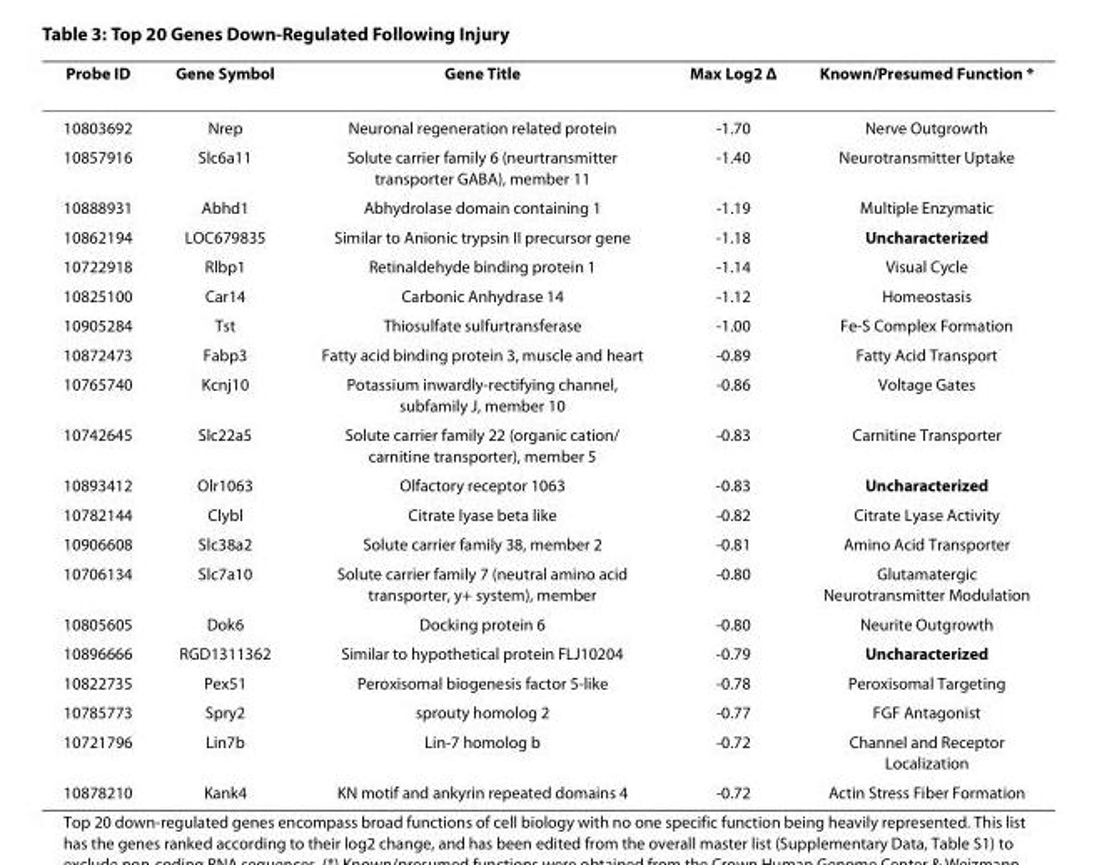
<table><thead><tr><td>Probe ID</td><td>Gene Symbol</td><td>Gene Title</td><td>Max Log2 Δ</td><td>Known/Presumed Function *</td></tr></thead><tbody><tr><td>10803692</td><td>Nrep</td><td>Neuronal regeneration related protein</td><td>-1.70</td><td>Nerve Outgrowth</td></tr><tr><td>10857916</td><td>Slc6a11</td><td>Solute carrier family 6 (neurtransmitter transporter GABA), member 11</td><td>-1.40</td><td>Neurotransmitter Uptake</td></tr><tr><td>10888931</td><td>Abhd1</td><td>Abhydrolase domain containing 1</td><td>-1.19</td><td>Multiple Enzymatic</td></tr><tr><td>10862194</td><td>LOC679835</td><td>Similar to Anionic trypsin II precursor gene</td><td>-1.18</td><td>Uncharacterized</td></tr><tr><td>10722918</td><td>Rlbp1</td><td>Retinaldehyde binding protein 1</td><td>-1.14</td><td>Visual Cycle</td></tr><tr><td>10825100</td><td>Car14</td><td>Carbonic Anhydrase 14</td><td>-1.12</td><td>Homeostasis</td></tr><tr><td>10905284</td><td>Tst</td><td>Thiosulfate sulfurtransferase</td><td>-1.00</td><td>Fe-S Complex Formation</td></tr><tr><td>10872473</td><td>Fabp3</td><td>Fatty acid binding protein 3, muscle and heart</td><td>-0.89</td><td>Fatty Acid Transport</td></tr><tr><td>10765740</td><td>Kcnj10</td><td>Potassium inwardly-rectifying channel, subfamily J, member 10</td><td>-0.86</td><td>Voltage Gates</td></tr><tr><td>10742645</td><td>Slc22a5</td><td>Solute carrier family 22 (organic cation/ carnitine transporter), member 5</td><td>-0.83</td><td>Carnitine Transporter</td></tr><tr><td>10893412</td><td>Olr1063</td><td>Olfactory receptor 1063</td><td>-0.83</td><td>Uncharacterized</td></tr><tr><td>10782144</td><td>Clybl</td><td>Citrate lyase beta like</td><td>-0.82</td><td>Citrate Lyase Activity</td></tr><tr><td>10906608</td><td>Slc38a2</td><td>Solute carrier family 38, member 2</td><td>-0.81</td><td>Amino Acid Transporter</td></tr><tr><td>10706134</td><td>Slc7a10</td><td>Solute carrier family 7 (neutral amino acid transporter, y+ system), member</td><td>-0.80</td><td>Glutamatergic Neurotransmitter Modulation</td></tr><tr><td>10805605</td><td>Dok6</td><td>Docking protein 6</td><td>-0.80</td><td>Neurite Outgrowth</td></tr><tr><td>10896666</td><td>RGD1311362</td><td>Similar to hypothetical protein FLJ10204</td><td>-0.79</td><td>Uncharacterized</td></tr><tr><td>10822735</td><td>Pex51</td><td>Peroxisomal biogenesis factor 5-like</td><td>-0.78</td><td>Peroxisomal Targeting</td></tr><tr><td>10785773</td><td>Spry2</td><td>sprouty homolog 2</td><td>-0.77</td><td>FGF Antagonist</td></tr><tr><td>10721796</td><td>Lin7b</td><td>Lin-7 homolog b</td><td>-0.72</td><td>Channel and Receptor Localization</td></tr><tr><td>10878210</td><td>Kank4</td><td>KN motif and ankyrin repeated domains 4</td><td>-0.72</td><td>Actin Stress Fiber Formation</td></tr></tbody></table>